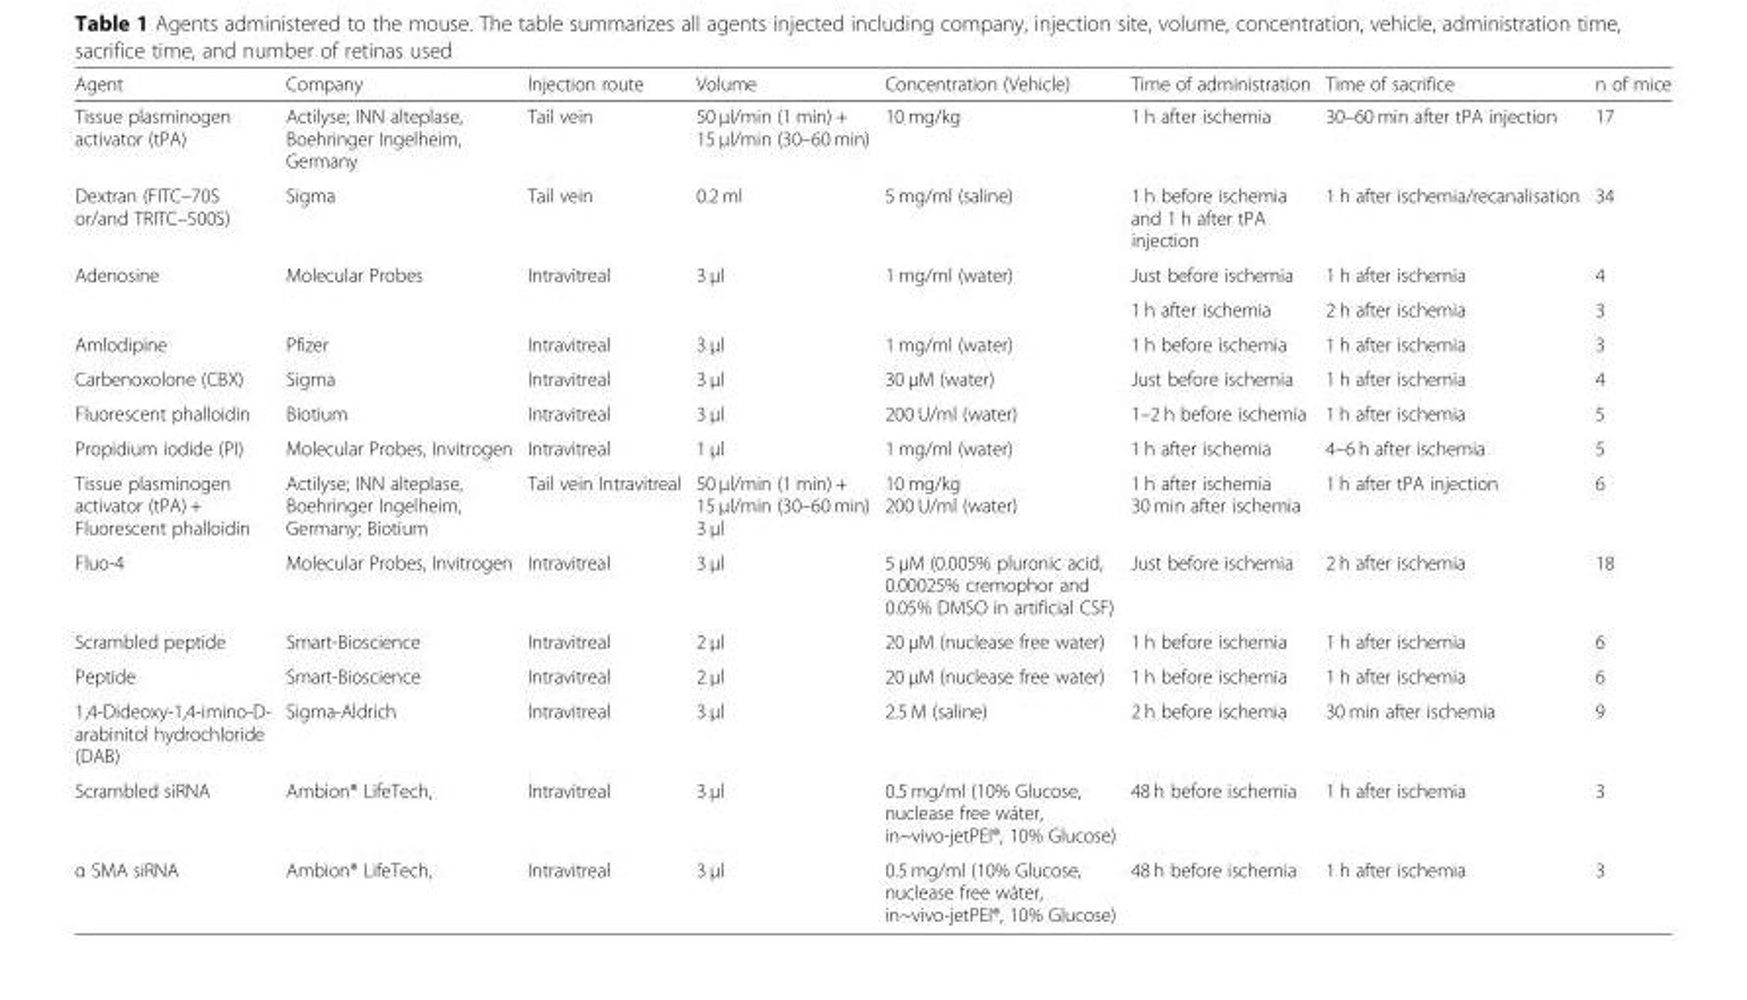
<table><thead><tr><td>Agent</td><td>Company</td><td>Injection route</td><td>Volume</td><td>Concentration (Vehicle)</td><td>Time of administration</td><td>Time of sacrifice</td><td>n of mice</td></tr></thead><tbody><tr><td>Tissue plasminogen activator (tPA)</td><td>Actilyse; INN alteplase, Boehringer Ingelheim, Germany</td><td>Tail vein</td><td>50 μl/min (1 min) + 15 μl/min (30–60 min)</td><td>10 mg/kg</td><td>1 h after ischemia</td><td>30–60 min after tPA injection</td><td>17</td></tr><tr><td>Dextran (FITC–70S or/and TRITC–500S)</td><td>Sigma</td><td>Tail vein</td><td>0.2 ml</td><td>5 mg/ml (saline)</td><td>1 h before ischemia and 1 h after tPA injection</td><td>1 h after ischemia/recanalisation</td><td>34</td></tr><tr><td rowspan="2">Adenosine</td><td rowspan="2">Molecular Probes</td><td rowspan="2">Intravitreal</td><td rowspan="2">3 μl</td><td rowspan="2">1 mg/ml (water)</td><td>Just before ischemia</td><td>1 h after ischemia</td><td>4</td></tr><tr><td>1 h after ischemia</td><td>2 h after ischemia</td><td>3</td></tr><tr><td>Amlodipine</td><td>Pfizer</td><td>Intravitreal</td><td>3 μl</td><td>1 mg/ml (water)</td><td>1 h before ischemia</td><td>1 h after ischemia</td><td>3</td></tr><tr><td>Carbenoxolone (CBX)</td><td>Sigma</td><td>Intravitreal</td><td>3 μl</td><td>30 μM (water)</td><td>Just before ischemia</td><td>1 h after ischemia</td><td>4</td></tr><tr><td>Fluorescent phalloidin</td><td>Biotium</td><td>Intravitreal</td><td>3 μl</td><td>200 U/ml (water)</td><td>1–2 h before ischemia</td><td>1 h after ischemia</td><td>5</td></tr><tr><td>Propidium iodide (PI)</td><td>Molecular Probes, Invitrogen</td><td>Intravitreal</td><td>1 μl</td><td>1 mg/ml (water)</td><td>1 h after ischemia</td><td>4–6 h after ischemia</td><td>5</td></tr><tr><td>Tissue plasminogen activator (tPA) + Fluorescent phalloidin</td><td>Actilyse; INN alteplase, Boehringer Ingelheim, Germany; Biotium</td><td>Tail vein Intravitreal</td><td>50 μl/min (1 min) + 15 μl/min (30–60 min) 3 μl</td><td>10 mg/kg 200 U/ml (water)</td><td>1 h after ischemia 30 min after ischemia</td><td>1 h after tPA injection</td><td>6</td></tr><tr><td>Fluo-4</td><td>Molecular Probes, Invitrogen</td><td>Intravitreal</td><td>3 μl</td><td>5 μM (0.005% pluronic acid, 0.00025% cremophor and 0.05% DMSO in artificial CSF)</td><td>Just before ischemia</td><td>2 h after ischemia</td><td>18</td></tr><tr><td>Scrambled peptide</td><td>Smart-Bioscience</td><td>Intravitreal</td><td>2 μl</td><td>20 μM (nuclease free water)</td><td>1 h before ischemia</td><td>1 h after ischemia</td><td>6</td></tr><tr><td>Peptide</td><td>Smart-Bioscience</td><td>Intravitreal</td><td>2 μl</td><td>20 μM (nuclease free water)</td><td>1 h before ischemia</td><td>1 h after ischemia</td><td>6</td></tr><tr><td>1,4-Dideoxy-1,4-imino-D- arabinitol hydrochloride (DAB)</td><td>Sigma-Aldrich</td><td>Intravitreal</td><td>3 μl</td><td>2.5 M (saline)</td><td>2 h before ischemia</td><td>30 min after ischemia</td><td>9</td></tr><tr><td>Scrambled siRNA</td><td>Ambion® LifeTech,</td><td>Intravitreal</td><td>3 μl</td><td>0.5 mg/ml (10% Glucose, nuclease free wáter, in~vivo-jetPEI®, 10% Glucose)</td><td>48 h before ischemia</td><td>1 h after ischemia</td><td>3</td></tr><tr><td>α SMA siRNA</td><td>Ambion® LifeTech,</td><td>Intravitreal</td><td>3 μl</td><td>0.5 mg/ml (10% Glucose, nuclease free wáter, in~vivo-jetPEI®, 10% Glucose)</td><td>48 h before ischemia</td><td>1 h after ischemia</td><td>3</td></tr></tbody></table>